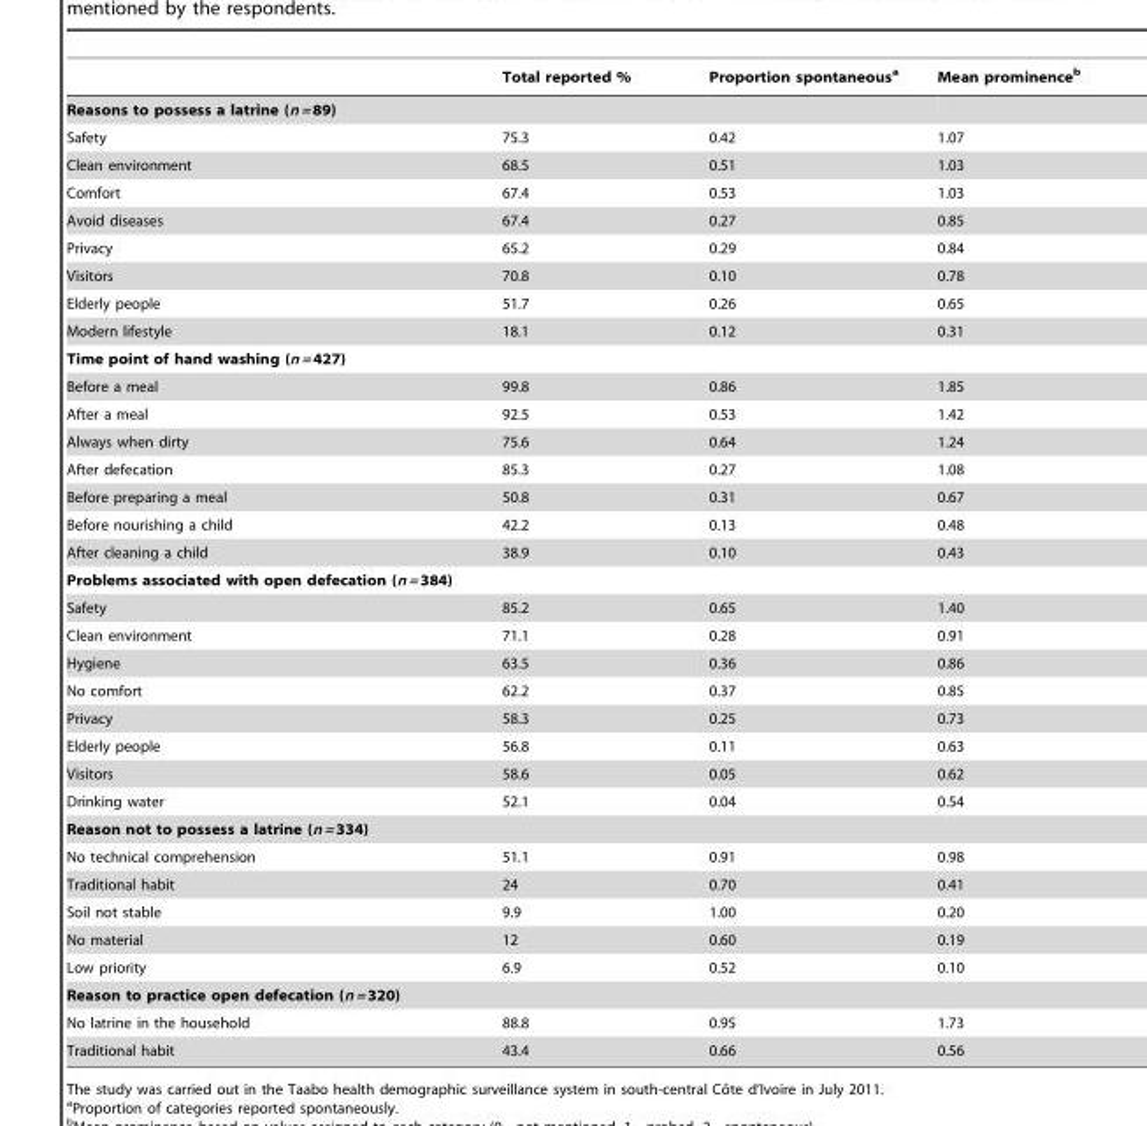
<table><thead><tr><td></td><td>Total reported %</td><td>Proportion spontaneous<sup>a</sup></td><td>Mean prominence<sup>b</sup></td></tr></thead><tbody><tr><td colspan="4">Reasons to possess a latrine (n = 89)</td></tr><tr><td>Safety</td><td>75.3</td><td>0.42</td><td>1.07</td></tr><tr><td>Clean environment</td><td>68.5</td><td>0.51</td><td>1.03</td></tr><tr><td>Comfort</td><td>67.4</td><td>0.53</td><td>1.03</td></tr><tr><td>Avoid diseases</td><td>67.4</td><td>0.27</td><td>0.85</td></tr><tr><td>Privacy</td><td>65.2</td><td>0.29</td><td>0.84</td></tr><tr><td>Visitors</td><td>70.8</td><td>0.10</td><td>0.78</td></tr><tr><td>Elderly people</td><td>51.7</td><td>0.26</td><td>0.65</td></tr><tr><td>Modern lifestyle</td><td>18.1</td><td>0.12</td><td>0.31</td></tr><tr><td colspan="4">Time point of hand washing (n = 427)</td></tr><tr><td>Before a meal</td><td>99.8</td><td>0.86</td><td>1.85</td></tr><tr><td>After a meal</td><td>92.5</td><td>0.53</td><td>1.42</td></tr><tr><td>Always when dirty</td><td>75.6</td><td>0.64</td><td>1.24</td></tr><tr><td>After defecation</td><td>85.3</td><td>0.27</td><td>1.08</td></tr><tr><td>Before preparing a meal</td><td>50.8</td><td>0.31</td><td>0.67</td></tr><tr><td>Before nourishing a child</td><td>42.2</td><td>0.13</td><td>0.48</td></tr><tr><td>After cleaning a child</td><td>38.9</td><td>0.10</td><td>0.43</td></tr><tr><td colspan="4">Problems associated with open defecation (n = 384)</td></tr><tr><td>Safety</td><td>85.2</td><td>0.65</td><td>1.40</td></tr><tr><td>Clean environment</td><td>71.1</td><td>0.28</td><td>0.91</td></tr><tr><td>Hygiene</td><td>63.5</td><td>0.36</td><td>0.86</td></tr><tr><td>No comfort</td><td>62.2</td><td>0.37</td><td>0.85</td></tr><tr><td>Privacy</td><td>58.3</td><td>0.25</td><td>0.73</td></tr><tr><td>Elderly people</td><td>56.8</td><td>0.11</td><td>0.63</td></tr><tr><td>Visitors</td><td>58.6</td><td>0.05</td><td>0.62</td></tr><tr><td>Drinking water</td><td>52.1</td><td>0.04</td><td>0.54</td></tr><tr><td colspan="4">Reason not to possess a latrine (n = 334)</td></tr><tr><td>No technical comprehension</td><td>51.1</td><td>0.91</td><td>0.98</td></tr><tr><td>Traditional habit</td><td>24</td><td>0.70</td><td>0.41</td></tr><tr><td>Soil not stable</td><td>9.9</td><td>1.00</td><td>0.20</td></tr><tr><td>No material</td><td>12</td><td>0.60</td><td>0.19</td></tr><tr><td>Low priority</td><td>6.9</td><td>0.52</td><td>0.10</td></tr><tr><td colspan="4">Reason to practice open defecation (n = 320)</td></tr><tr><td>No latrine in the household</td><td>88.8</td><td>0.95</td><td>1.73</td></tr><tr><td>Traditional habit</td><td>43.4</td><td>0.66</td><td>0.56</td></tr></tbody></table>